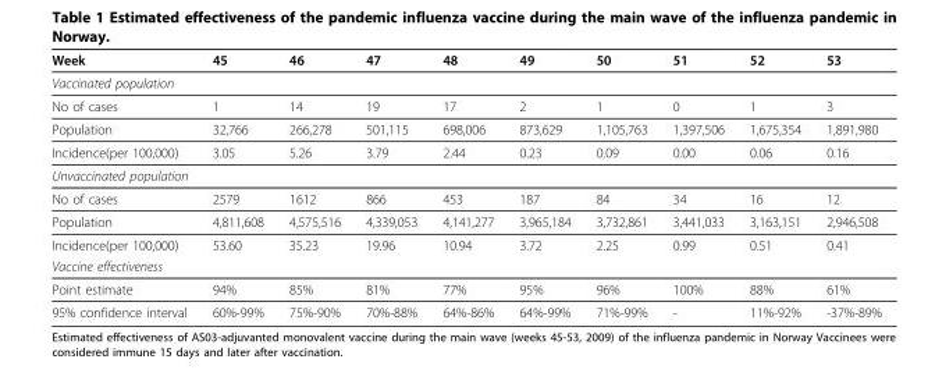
<table><thead><tr><td>Week</td><td>45</td><td>46</td><td>47</td><td>48</td><td>49</td><td>50</td><td>51</td><td>52</td><td>53</td></tr></thead><tbody><tr><td colspan="10">Vaccinated population</td></tr><tr><td>No of cases</td><td>1</td><td>14</td><td>19</td><td>17</td><td>2</td><td>1</td><td>0</td><td>1</td><td>3</td></tr><tr><td>Population</td><td>32,766</td><td>266,278</td><td>501,115</td><td>698,006</td><td>873,629</td><td>1,105,763</td><td>1,397,506</td><td>1,675,354</td><td>1,891,980</td></tr><tr><td>Incidence(per 100,000)</td><td>3.05</td><td>5.26</td><td>3.79</td><td>2.44</td><td>0.23</td><td>0.09</td><td>0.00</td><td>0.06</td><td>0.16</td></tr><tr><td colspan="10">Unvaccinated population</td></tr><tr><td>No of cases</td><td>2579</td><td>1612</td><td>866</td><td>453</td><td>187</td><td>84</td><td>34</td><td>16</td><td>12</td></tr><tr><td>Population</td><td>4,811,608</td><td>4,575,516</td><td>4,339,053</td><td>4,141,277</td><td>3,965,184</td><td>3,732,861</td><td>3,441,033</td><td>3,163,151</td><td>2,946,508</td></tr><tr><td>Incidence(per 100,000)</td><td>53.60</td><td>35.23</td><td>19.96</td><td>10.94</td><td>3.72</td><td>2.25</td><td>0.99</td><td>0.51</td><td>0.41</td></tr><tr><td colspan="10">Vaccine effectiveness</td></tr><tr><td>Point estimate</td><td>94%</td><td>85%</td><td>81%</td><td>77%</td><td>95%</td><td>96%</td><td>100%</td><td>88%</td><td>61%</td></tr><tr><td>95% confidence interval</td><td>60%-99%</td><td>75%-90%</td><td>70%-88%</td><td>64%-86%</td><td>64%-99%</td><td>71%-99%</td><td>-</td><td>11%-92%</td><td>-37%-89%</td></tr></tbody></table>